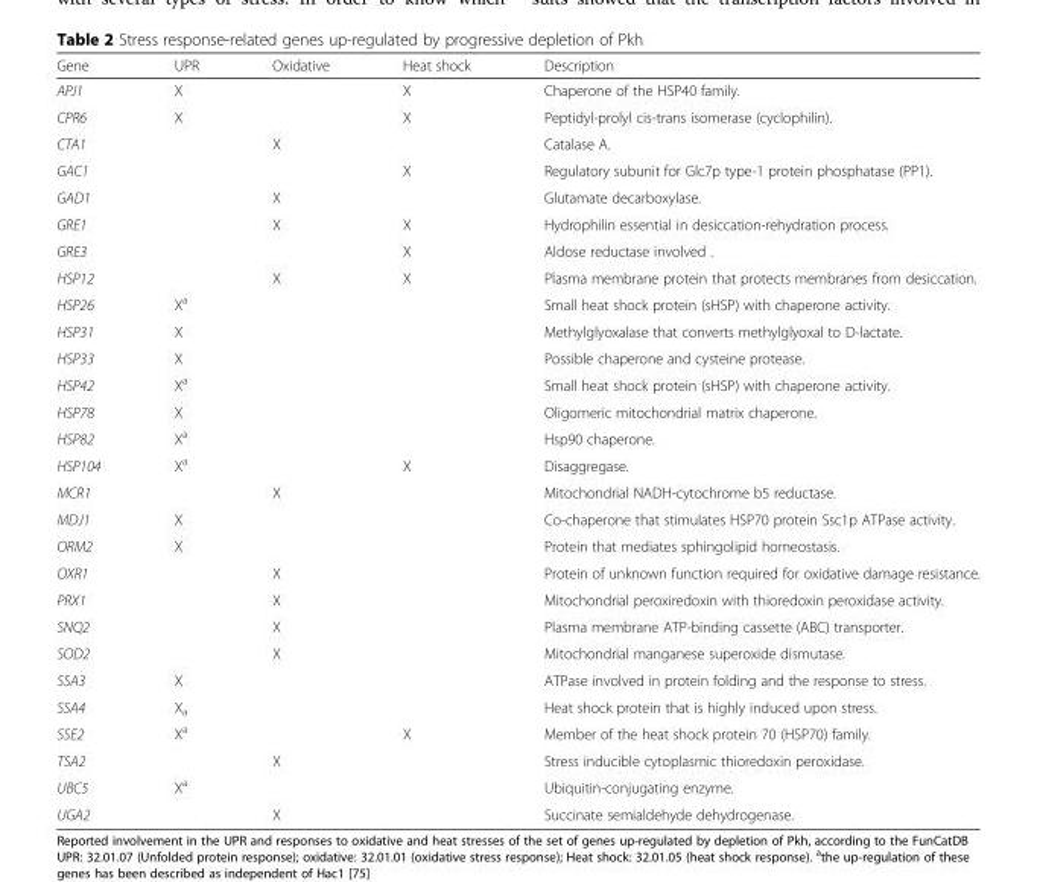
<table><thead><tr><td>Gene</td><td>UPR</td><td>Oxidative</td><td>Heat shock</td><td>Description</td></tr></thead><tbody><tr><td>APJ1</td><td>X</td><td></td><td>X</td><td>Chaperone of the HSP40 family.</td></tr><tr><td>CPR6</td><td>X</td><td></td><td>X</td><td>Peptidyl-prolyl cis-trans isomerase (cyclophilin).</td></tr><tr><td>CTA1</td><td></td><td>X</td><td></td><td>Catalase A.</td></tr><tr><td>GAC1</td><td></td><td></td><td>X</td><td>Regulatory subunit for Glc7p type-1 protein phosphatase (PP1).</td></tr><tr><td>GAD1</td><td></td><td>X</td><td></td><td>Glutamate decarboxylase.</td></tr><tr><td>GRE1</td><td></td><td>X</td><td>X</td><td>Hydrophilin essential in desiccation-rehydration process.</td></tr><tr><td>GRE3</td><td></td><td></td><td>X</td><td>Aldose reductase involved .</td></tr><tr><td>HSP12</td><td></td><td>X</td><td>X</td><td>Plasma membrane protein that protects membranes from desiccation.</td></tr><tr><td>HSP26</td><td>X<sup>a</sup></td><td></td><td></td><td>Small heat shock protein (sHSP) with chaperone activity.</td></tr><tr><td>HSP31</td><td>X</td><td></td><td></td><td>Methylglyoxalase that converts methylglyoxal to D-lactate.</td></tr><tr><td>HSP33</td><td>X</td><td></td><td></td><td>Possible chaperone and cysteine protease.</td></tr><tr><td>HSP42</td><td>X<sup>a</sup></td><td></td><td></td><td>Small heat shock protein (sHSP) with chaperone activity.</td></tr><tr><td>HSP78</td><td>X</td><td></td><td></td><td>Oligomeric mitochondrial matrix chaperone.</td></tr><tr><td>HSP82</td><td>X<sup>a</sup></td><td></td><td></td><td>Hsp90 chaperone.</td></tr><tr><td>HSP104</td><td>X<sup>a</sup></td><td></td><td>X</td><td>Disaggregase.</td></tr><tr><td>MCR1</td><td></td><td>X</td><td></td><td>Mitochondrial NADH-cytochrome b5 reductase.</td></tr><tr><td>MDJ1</td><td>X</td><td></td><td></td><td>Co-chaperone that stimulates HSP70 protein Ssc1p ATPase activity.</td></tr><tr><td>ORM2</td><td>X</td><td></td><td></td><td>Protein that mediates sphingolipid homeostasis.</td></tr><tr><td>OXR1</td><td></td><td>X</td><td></td><td>Protein of unknown function required for oxidative damage resistance.</td></tr><tr><td>PRX1</td><td></td><td>X</td><td></td><td>Mitochondrial peroxiredoxin with thioredoxin peroxidase activity.</td></tr><tr><td>SNQ2</td><td></td><td>X</td><td></td><td>Plasma membrane ATP-binding cassette (ABC) transporter.</td></tr><tr><td>SOD2</td><td></td><td>X</td><td></td><td>Mitochondrial manganese superoxide dismutase.</td></tr><tr><td>SSA3</td><td>X</td><td></td><td></td><td>ATPase involved in protein folding and the response to stress.</td></tr><tr><td>SSA4</td><td>X<sub>a</sub></td><td></td><td></td><td>Heat shock protein that is highly induced upon stress.</td></tr><tr><td>SSE2</td><td>X<sup>a</sup></td><td></td><td>X</td><td>Member of the heat shock protein 70 (HSP70) family.</td></tr><tr><td>TSA2</td><td></td><td>X</td><td></td><td>Stress inducible cytoplasmic thioredoxin peroxidase.</td></tr><tr><td>UBC5</td><td>X<sup>a</sup></td><td></td><td></td><td>Ubiquitin-conjugating enzyme.</td></tr><tr><td>UGA2</td><td></td><td>X</td><td></td><td>Succinate semialdehyde dehydrogenase.</td></tr></tbody></table>